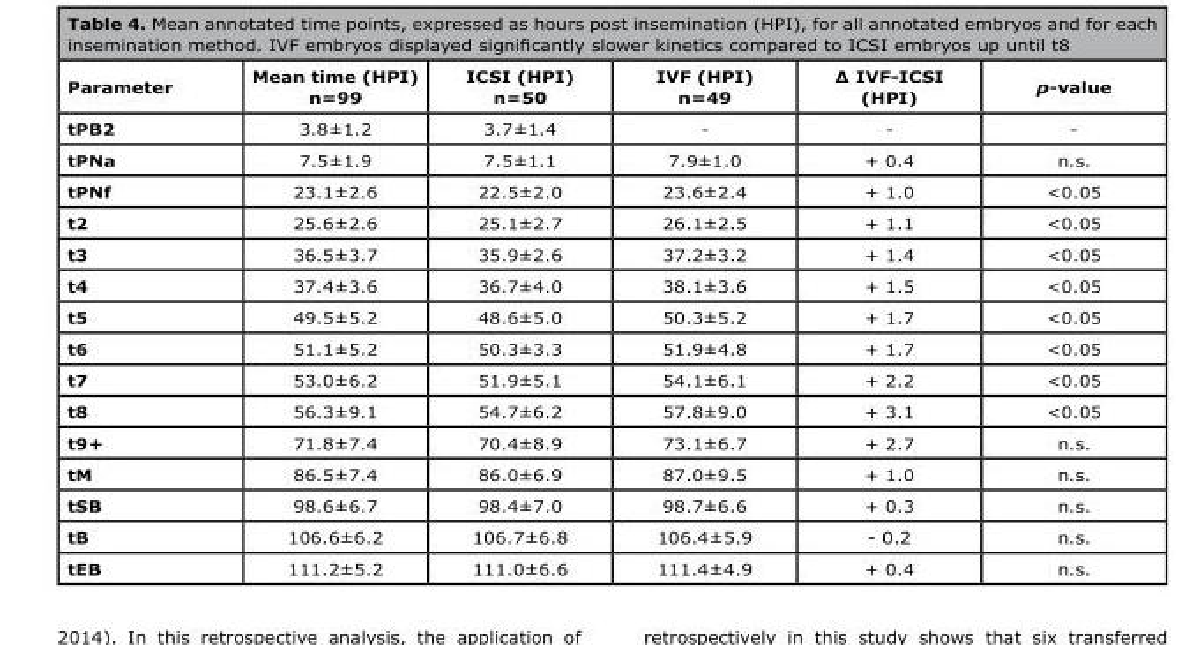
<table><thead><tr><td>Parameter</td><td>Mean time (HPI) n=99</td><td>ICSI (HPI) n=50</td><td>IVF (HPI) n=49</td><td>∆ IVF-ICSI (HPI)</td><td>p-value</td></tr></thead><tbody><tr><td>tPB2</td><td>3.8±1.2</td><td>3.7±1.4</td><td>-</td><td>-</td><td>-</td></tr><tr><td>tPNa</td><td>7.5±1.9</td><td>7.5±1.1</td><td>7.9±1.0</td><td>+ 0.4</td><td>n.s.</td></tr><tr><td>tPNf</td><td>23.1±2.6</td><td>22.5±2.0</td><td>23.6±2.4</td><td>+ 1.0</td><td>&lt;0.05</td></tr><tr><td>t2</td><td>25.6±2.6</td><td>25.1±2.7</td><td>26.1±2.5</td><td>+ 1.1</td><td>&lt;0.05</td></tr><tr><td>t3</td><td>36.5±3.7</td><td>35.9±2.6</td><td>37.2±3.2</td><td>+ 1.4</td><td>&lt;0.05</td></tr><tr><td>t4</td><td>37.4±3.6</td><td>36.7±4.0</td><td>38.1±3.6</td><td>+ 1.5</td><td>&lt;0.05</td></tr><tr><td>t5</td><td>49.5±5.2</td><td>48.6±5.0</td><td>50.3±5.2</td><td>+ 1.7</td><td>&lt;0.05</td></tr><tr><td>t6</td><td>51.1±5.2</td><td>50.3±3.3</td><td>51.9±4.8</td><td>+ 1.7</td><td>&lt;0.05</td></tr><tr><td>t7</td><td>53.0±6.2</td><td>51.9±5.1</td><td>54.1±6.1</td><td>+ 2.2</td><td>&lt;0.05</td></tr><tr><td>t8</td><td>56.3±9.1</td><td>54.7±6.2</td><td>57.8±9.0</td><td>+ 3.1</td><td>&lt;0.05</td></tr><tr><td>t9+</td><td>71.8±7.4</td><td>70.4±8.9</td><td>73.1±6.7</td><td>+ 2.7</td><td>n.s.</td></tr><tr><td>tM</td><td>86.5±7.4</td><td>86.0±6.9</td><td>87.0±9.5</td><td>+ 1.0</td><td>n.s.</td></tr><tr><td>tSB</td><td>98.6±6.7</td><td>98.4±7.0</td><td>98.7±6.6</td><td>+ 0.3</td><td>n.s.</td></tr><tr><td>tB</td><td>106.6±6.2</td><td>106.7±6.8</td><td>106.4±5.9</td><td>- 0.2</td><td>n.s.</td></tr><tr><td>tEB</td><td>111.2±5.2</td><td>111.0±6.6</td><td>111.4±4.9</td><td>+ 0.4</td><td>n.s.</td></tr></tbody></table>